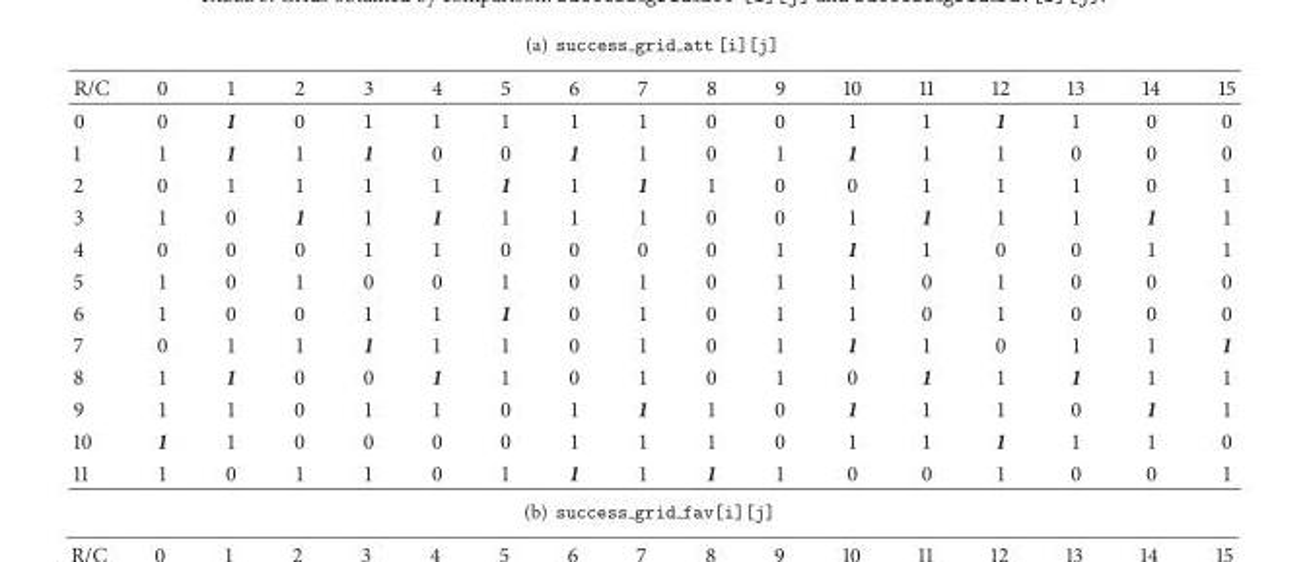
<table><thead><tr><td>R/C</td><td>0</td><td>1</td><td>2</td><td>3</td><td>4</td><td>5</td><td>6</td><td>7</td><td>8</td><td>9</td><td>10</td><td>11</td><td>12</td><td>13</td><td>14</td><td>15</td></tr></thead><tbody><tr><td>0</td><td>0</td><td>1</td><td>0</td><td>1</td><td>1</td><td>1</td><td>1</td><td>1</td><td>0</td><td>0</td><td>1</td><td>1</td><td>1</td><td>1</td><td>0</td><td>0</td></tr><tr><td>1</td><td>1</td><td>1</td><td>1</td><td>1</td><td>0</td><td>0</td><td>1</td><td>1</td><td>0</td><td>1</td><td>1</td><td>1</td><td>1</td><td>0</td><td>0</td><td>0</td></tr><tr><td>2</td><td>0</td><td>1</td><td>1</td><td>1</td><td>1</td><td>1</td><td>1</td><td>1</td><td>1</td><td>0</td><td>0</td><td>1</td><td>1</td><td>1</td><td>0</td><td>1</td></tr><tr><td>3</td><td>1</td><td>0</td><td>1</td><td>1</td><td>1</td><td>1</td><td>1</td><td>1</td><td>0</td><td>0</td><td>1</td><td>1</td><td>1</td><td>1</td><td>1</td><td>1</td></tr><tr><td>4</td><td>0</td><td>0</td><td>0</td><td>1</td><td>1</td><td>0</td><td>0</td><td>0</td><td>0</td><td>1</td><td>1</td><td>1</td><td>0</td><td>0</td><td>1</td><td>1</td></tr><tr><td>5</td><td>1</td><td>0</td><td>1</td><td>0</td><td>0</td><td>1</td><td>0</td><td>1</td><td>0</td><td>1</td><td>1</td><td>0</td><td>1</td><td>0</td><td>0</td><td>0</td></tr><tr><td>6</td><td>1</td><td>0</td><td>0</td><td>1</td><td>1</td><td>1</td><td>0</td><td>1</td><td>0</td><td>1</td><td>1</td><td>0</td><td>1</td><td>0</td><td>0</td><td>0</td></tr><tr><td>7</td><td>0</td><td>1</td><td>1</td><td>1</td><td>1</td><td>1</td><td>0</td><td>1</td><td>0</td><td>1</td><td>1</td><td>1</td><td>0</td><td>1</td><td>1</td><td>1</td></tr><tr><td>8</td><td>1</td><td>1</td><td>0</td><td>0</td><td>1</td><td>1</td><td>0</td><td>1</td><td>0</td><td>1</td><td>0</td><td>1</td><td>1</td><td>1</td><td>1</td><td>1</td></tr><tr><td>9</td><td>1</td><td>1</td><td>0</td><td>1</td><td>1</td><td>0</td><td>1</td><td>1</td><td>1</td><td>0</td><td>1</td><td>1</td><td>1</td><td>0</td><td>1</td><td>1</td></tr><tr><td>10</td><td>1</td><td>1</td><td>0</td><td>0</td><td>0</td><td>0</td><td>1</td><td>1</td><td>1</td><td>0</td><td>1</td><td>1</td><td>1</td><td>1</td><td>1</td><td>0</td></tr><tr><td>11</td><td>1</td><td>0</td><td>1</td><td>1</td><td>0</td><td>1</td><td>1</td><td>1</td><td>1</td><td>1</td><td>0</td><td>0</td><td>1</td><td>0</td><td>0</td><td>1</td></tr></tbody></table>